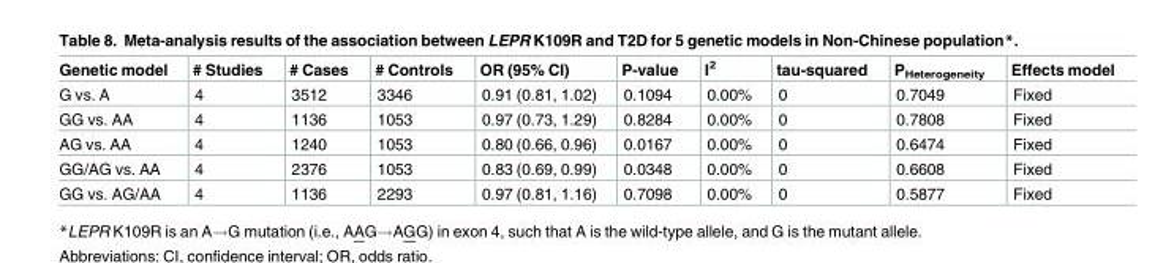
<table><thead><tr><td>Genetic model</td><td># Studies</td><td># Cases</td><td># Controls</td><td>OR (95% CI)</td><td>P-value</td><td>I<sup>2</sup></td><td>tau-squared</td><td>P<sub>Heterogeneity</sub></td><td>Effects model</td></tr></thead><tbody><tr><td>G vs. A</td><td>4</td><td>3512</td><td>3346</td><td>0.91 (0.81, 1.02)</td><td>0.1094</td><td>0.00%</td><td>0</td><td>0.7049</td><td>Fixed</td></tr><tr><td>GG vs. AA</td><td>4</td><td>1136</td><td>1053</td><td>0.97 (0.73, 1.29)</td><td>0.8284</td><td>0.00%</td><td>0</td><td>0.7808</td><td>Fixed</td></tr><tr><td>AG vs. AA</td><td>4</td><td>1240</td><td>1053</td><td>0.80 (0.66, 0.96)</td><td>0.0167</td><td>0.00%</td><td>0</td><td>0.6474</td><td>Fixed</td></tr><tr><td>GG/AG vs. AA</td><td>4</td><td>2376</td><td>1053</td><td>0.83 (0.69, 0.99)</td><td>0.0348</td><td>0.00%</td><td>0</td><td>0.6608</td><td>Fixed</td></tr><tr><td>GG vs. AG/AA</td><td>4</td><td>1136</td><td>2293</td><td>0.97 (0.81, 1.16)</td><td>0.7098</td><td>0.00%</td><td>0</td><td>0.5877</td><td>Fixed</td></tr></tbody></table>